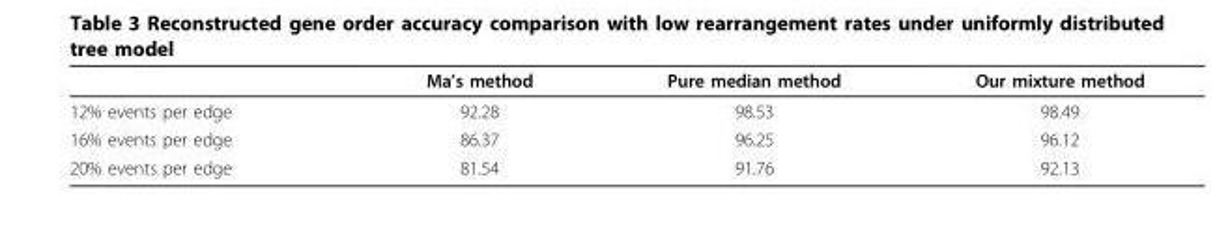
<table><thead><tr><td></td><td>Ma’s method</td><td>Pure median method</td><td>Our mixture method</td></tr></thead><tbody><tr><td>12% events per edge</td><td>92.28</td><td>98.53</td><td>98.49</td></tr><tr><td>16% events per edge</td><td>86.37</td><td>96.25</td><td>96.12</td></tr><tr><td>20% events per edge</td><td>81.54</td><td>91.76</td><td>92.13</td></tr></tbody></table>